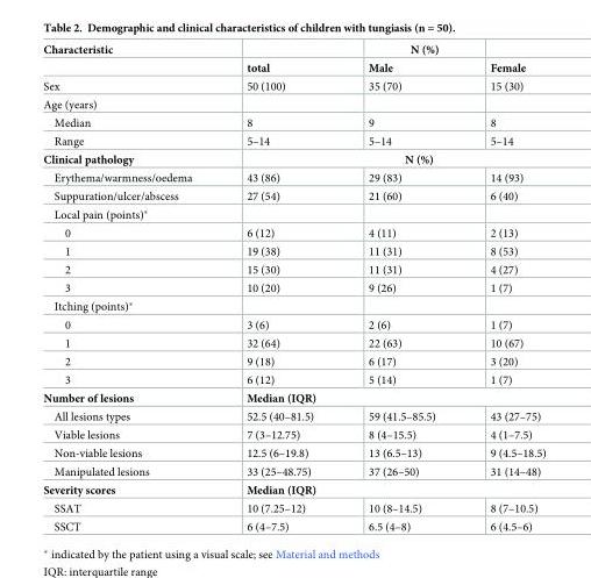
<table><tbody><tr><td rowspan="2">Characteristic</td><td></td><td>N (%)</td><td></td></tr><tr><td>total</td><td>Male</td><td>Female</td></tr><tr><td>Sex</td><td>50 (100)</td><td>35 (70)</td><td>15 (30)</td></tr><tr><td colspan="4">Age (years)</td></tr><tr><td>Median</td><td>8</td><td>9</td><td>8</td></tr><tr><td>Range</td><td>5–14</td><td>5–14</td><td>5–14</td></tr><tr><td>Clinical pathology</td><td colspan="3">N (%)</td></tr><tr><td>Erythema/warmness/oedema</td><td>43 (86)</td><td>29 (83)</td><td>14 (93)</td></tr><tr><td>Suppuration/ulcer/abscess</td><td>27 (54)</td><td>21 (60)</td><td>6 (40)</td></tr><tr><td colspan="4">Local pain (points)*</td></tr><tr><td>0</td><td>6 (12)</td><td>4 (11)</td><td>2 (13)</td></tr><tr><td>1</td><td>19 (38)</td><td>11 (31)</td><td>8 (53)</td></tr><tr><td>2</td><td>15 (30)</td><td>11 (31)</td><td>4 (27)</td></tr><tr><td>3</td><td>10 (20)</td><td>9 (26)</td><td>1 (7)</td></tr><tr><td colspan="4">Itching (points)*</td></tr><tr><td>0</td><td>3 (6)</td><td>2 (6)</td><td>1 (7)</td></tr><tr><td>1</td><td>32 (64)</td><td>22 (63)</td><td>10 (67)</td></tr><tr><td>2</td><td>9 (18)</td><td>6 (17)</td><td>3 (20)</td></tr><tr><td>3</td><td>6 (12)</td><td>5 (14)</td><td>1 (7)</td></tr><tr><td>Number of lesions</td><td colspan="3">Median (IQR)</td></tr><tr><td>All lesions types</td><td>52.5 (40–81.5)</td><td>59 (41.5–85.5)</td><td>43 (27–75)</td></tr><tr><td>Viable lesions</td><td>7 (3–12.75)</td><td>8 (4–15.5)</td><td>4 (1–7.5)</td></tr><tr><td>Non-viable lesions</td><td>12.5 (6–19.8)</td><td>13 (6.5–13)</td><td>9 (4.5–18.5)</td></tr><tr><td>Manipulated lesions</td><td>33 (25–48.75)</td><td>37 (26–50)</td><td>31 (14–48)</td></tr><tr><td>Severity scores</td><td colspan="3">Median (IQR)</td></tr><tr><td>SSAT</td><td>10 (7.25–12)</td><td>10 (8–14.5)</td><td>8 (7–10.5)</td></tr><tr><td>SSCT</td><td>6 (4–7.5)</td><td>6.5 (4–8)</td><td>6 (4.5–6)</td></tr></tbody></table>